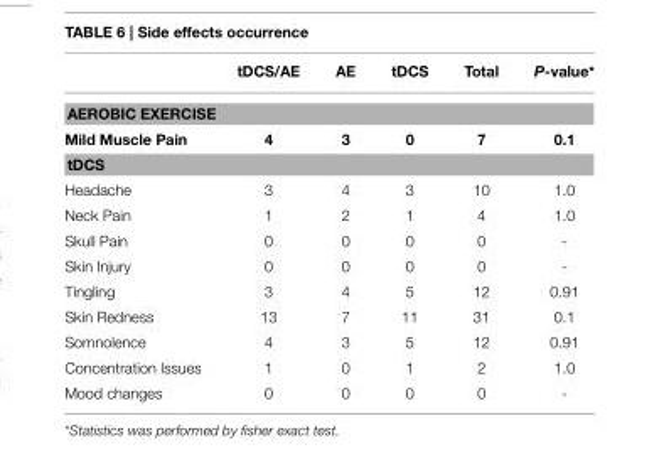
<table><thead><tr><td></td><td>tDCS/AE</td><td>AE</td><td>tDCS</td><td>Total</td><td>P-value*</td></tr></thead><tbody><tr><td colspan="6">AEROBIC EXERCISE</td></tr><tr><td>Mild Muscle Pain</td><td>4</td><td>3</td><td>0</td><td>7</td><td>0.1</td></tr><tr><td colspan="6">tDCS</td></tr><tr><td>Headache</td><td>3</td><td>4</td><td>3</td><td>10</td><td>1.0</td></tr><tr><td>Neck Pain</td><td>1</td><td>2</td><td>1</td><td>4</td><td>1.0</td></tr><tr><td>Skull Pain</td><td>0</td><td>0</td><td>0</td><td>0</td><td>-</td></tr><tr><td>Skin Injury</td><td>0</td><td>0</td><td>0</td><td>0</td><td>-</td></tr><tr><td>Tingling</td><td>3</td><td>4</td><td>5</td><td>12</td><td>0.91</td></tr><tr><td>Skin Redness</td><td>13</td><td>7</td><td>11</td><td>31</td><td>0.1</td></tr><tr><td>Somnolence</td><td>4</td><td>3</td><td>5</td><td>12</td><td>0.91</td></tr><tr><td>Concentration Issues</td><td>1</td><td>0</td><td>1</td><td>2</td><td>1.0</td></tr><tr><td>Mood changes</td><td>0</td><td>0</td><td>0</td><td>0</td><td>-</td></tr></tbody></table>